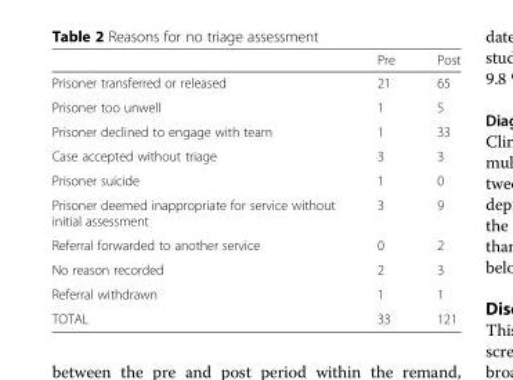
<table><thead><tr><td></td><td>Pre</td><td>Post</td></tr></thead><tbody><tr><td>Prisoner transferred or released</td><td>21</td><td>65</td></tr><tr><td>Prisoner too unwell</td><td>1</td><td>5</td></tr><tr><td>Prisoner declined to engage with team</td><td>1</td><td>33</td></tr><tr><td>Case accepted without triage</td><td>3</td><td>3</td></tr><tr><td>Prisoner suicide</td><td>1</td><td>0</td></tr><tr><td>Prisoner deemed inappropriate for service without initial assessment</td><td>3</td><td>9</td></tr><tr><td>Referral forwarded to another service</td><td>0</td><td>2</td></tr><tr><td>No reason recorded</td><td>2</td><td>3</td></tr><tr><td>Referral withdrawn</td><td>1</td><td>1</td></tr><tr><td>TOTAL</td><td>33</td><td>121</td></tr></tbody></table>